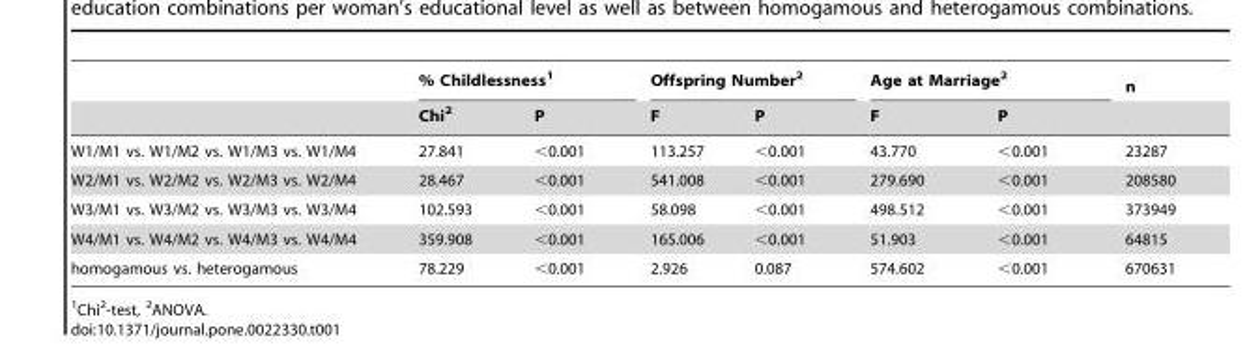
<table><thead><tr><td rowspan="2"></td><td colspan="2">% Childlessness<sup>1</sup></td><td colspan="2">Offspring Number<sup>2</sup></td><td colspan="2">Age at Marriage<sup>2</sup></td><td rowspan="2">n</td></tr><tr><td>Chi<sup>2</sup></td><td>P</td><td>F</td><td>P</td><td>F</td><td>P</td></tr></thead><tbody><tr><td>W1/M1 vs. W1/M2 vs. W1/M3 vs. W1/M4</td><td>27.841</td><td>&lt;0.001</td><td>113.257</td><td>&lt;0.001</td><td>43.770</td><td>&lt;0.001</td><td>23287</td></tr><tr><td>W2/M1 vs. W2/M2 vs. W2/M3 vs. W2/M4</td><td>28.467</td><td>&lt;0.001</td><td>541.008</td><td>&lt;0.001</td><td>279.690</td><td>&lt;0.001</td><td>208580</td></tr><tr><td>W3/M1 vs. W3/M2 vs. W3/M3 vs. W3/M4</td><td>102.593</td><td>&lt;0.001</td><td>58.098</td><td>&lt;0.001</td><td>498.512</td><td>&lt;0.001</td><td>373949</td></tr><tr><td>W4/M1 vs. W4/M2 vs. W4/M3 vs. W4/M4</td><td>359.908</td><td>&lt;0.001</td><td>165.006</td><td>&lt;0.001</td><td>51.903</td><td>&lt;0.001</td><td>64815</td></tr><tr><td>homogamous vs. heterogamous</td><td>78.229</td><td>&lt;0.001</td><td>2.926</td><td>0.087</td><td>574.602</td><td>&lt;0.001</td><td>670631</td></tr></tbody></table>